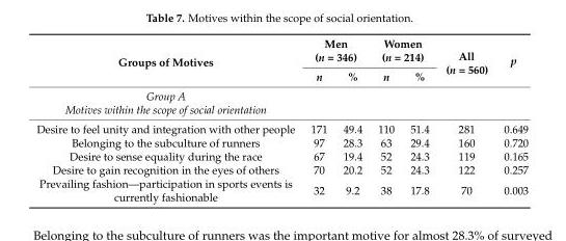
<table><thead><tr><td rowspan="2">Groups of Motives</td><td colspan="2">Men (n = 346)</td><td colspan="2">Women (n = 214)</td><td rowspan="2">All (n = 560)</td><td rowspan="2">p</td></tr><tr><td>n</td><td>%</td><td>n</td><td>%</td></tr></thead><tbody><tr><td colspan="7">Group A Motives within the scope of social orientation</td></tr><tr><td>Desire to feel unity and integration with other people</td><td>171</td><td>49.4</td><td>110</td><td>51.4</td><td>281</td><td>0.649</td></tr><tr><td>Belonging to the subculture of runners</td><td>97</td><td>28.3</td><td>63</td><td>29.4</td><td>160</td><td>0.720</td></tr><tr><td>Desire to sense equality during the race</td><td>67</td><td>19.4</td><td>52</td><td>24.3</td><td>119</td><td>0.165</td></tr><tr><td>Desire to gain recognition in the eyes of others</td><td>70</td><td>20.2</td><td>52</td><td>24.3</td><td>122</td><td>0.257</td></tr><tr><td>Prevailing fashion—participation in sports events is currently fashionable</td><td>32</td><td>9.2</td><td>38</td><td>17.8</td><td>70</td><td>0.003</td></tr></tbody></table>